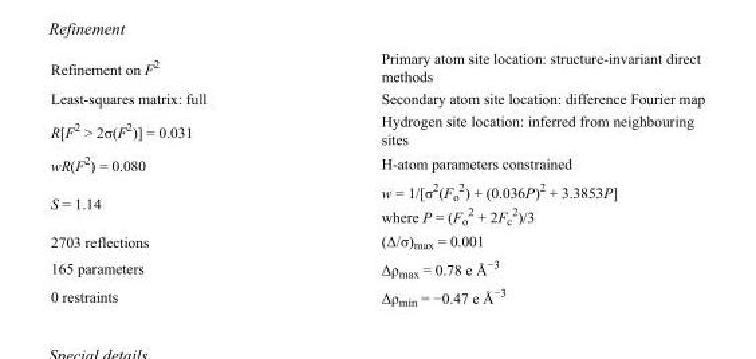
<table><tbody><tr><td>Refinement on F<sup>2</sup></td><td>Primary atom site location: structure-invariant direct methods</td></tr><tr><td>Least-squares matrix: full</td><td>Secondary atom site location: difference Fourier map</td></tr><tr><td>R[F<sup>2</sup> &gt; 2σ(F<sup>2</sup>)] = 0.031</td><td>Hydrogen site location: inferred from neighbouring sites</td></tr><tr><td>wR(F<sup>2</sup>) = 0.080</td><td>H-atom parameters constrained</td></tr><tr><td>S = 1.14</td><td>w = 1/[σ<sup>2</sup>(F<sub>o</sub> <sup>2</sup>) + (0.036P)<sup>2</sup> + 3.3853P] where P = (F<sub>o</sub> <sup>2</sup> + 2F<sub>c</sub> <sup>2</sup>)/3</td></tr><tr><td>2703 reflections</td><td>(Δ/σ)<sub>max</sub> = 0.001</td></tr><tr><td>165 parameters</td><td>Δρ<sub>max</sub> = 0.78 e Å<sup>−3</sup></td></tr><tr><td>0 restraints</td><td>Δρ<sub>min</sub> = −0.47 e Å<sup>−3</sup></td></tr></tbody></table>